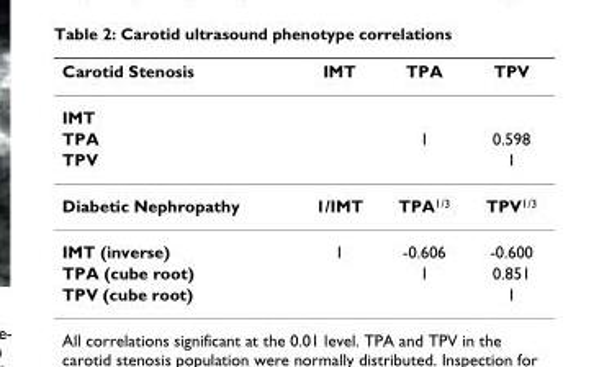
<table><thead><tr><td>Carotid Stenosis</td><td>IMT</td><td>TPA</td><td>TPV</td></tr></thead><tbody><tr><td colspan="4">IMT</td></tr><tr><td>TPA</td><td></td><td>1</td><td>0.598</td></tr><tr><td>TPV</td><td></td><td></td><td>1</td></tr><tr><td>Diabetic Nephropathy</td><td>1/IMT</td><td>TPA<sup>1/3</sup></td><td>TPV<sup>1/3</sup></td></tr><tr><td>IMT (inverse)</td><td>1</td><td>-0.606</td><td>-0.600</td></tr><tr><td>TPA (cube root)</td><td></td><td>1</td><td>0.851</td></tr><tr><td>TPV (cube root)</td><td></td><td></td><td>1</td></tr></tbody></table>